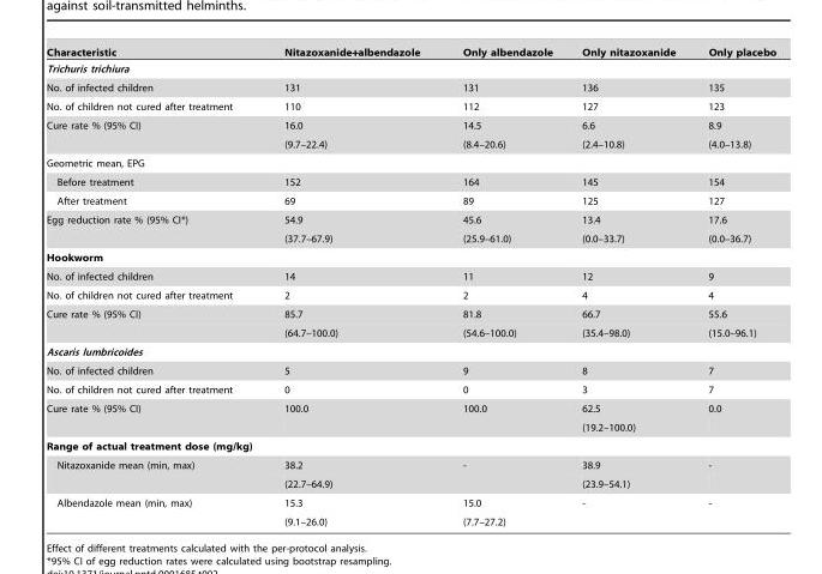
<table><thead><tr><td>Characteristic</td><td>Nitazoxanide+albendazole</td><td>Only albendazole</td><td>Only nitazoxanide</td><td>Only placebo</td></tr></thead><tbody><tr><td colspan="5">Trichuris trichiura</td></tr><tr><td>No. of infected children</td><td>131</td><td>131</td><td>136</td><td>135</td></tr><tr><td>No. of children not cured after treatment</td><td>110</td><td>112</td><td>127</td><td>123</td></tr><tr><td rowspan="2">Cure rate % (95% CI)</td><td>16.0</td><td>14.5</td><td>6.6</td><td>8.9</td></tr><tr><td>(9.7–22.4)</td><td>(8.4–20.6)</td><td>(2.4–10.8)</td><td>(4.0–13.8)</td></tr><tr><td colspan="5">Geometric mean, EPG</td></tr><tr><td>Before treatment</td><td>152</td><td>164</td><td>145</td><td>154</td></tr><tr><td>After treatment</td><td>69</td><td>89</td><td>125</td><td>127</td></tr><tr><td rowspan="2">Egg reduction rate % (95% CI*)</td><td>54.9</td><td>45.6</td><td>13.4</td><td>17.6</td></tr><tr><td>(37.7–67.9)</td><td>(25.9–61.0)</td><td>(0.0–33.7)</td><td>(0.0–36.7)</td></tr><tr><td colspan="5">Hookworm</td></tr><tr><td>No. of infected children</td><td>14</td><td>11</td><td>12</td><td>9</td></tr><tr><td>No. of children not cured after treatment</td><td>2</td><td>2</td><td>4</td><td>4</td></tr><tr><td rowspan="2">Cure rate % (95% CI)</td><td>85.7</td><td>81.8</td><td>66.7</td><td>55.6</td></tr><tr><td>(64.7–100.0)</td><td>(54.6–100.0)</td><td>(35.4–98.0)</td><td>(15.0–96.1)</td></tr><tr><td colspan="5">Ascaris lumbricoides</td></tr><tr><td>No. of infected children</td><td>5</td><td>9</td><td>8</td><td>7</td></tr><tr><td>No. of children not cured after treatment</td><td>0</td><td>0</td><td>3</td><td>7</td></tr><tr><td rowspan="2">Cure rate % (95% CI)</td><td>100.0</td><td>100.0</td><td>62.5</td><td>0.0</td></tr><tr><td></td><td></td><td>(19.2–100.0)</td><td></td></tr><tr><td colspan="5">Range of actual treatment dose (mg/kg)</td></tr><tr><td rowspan="2">Nitazoxanide mean (min, max)</td><td>38.2</td><td>-</td><td>38.9</td><td>-</td></tr><tr><td>(22.7–64.9)</td><td></td><td>(23.9–54.1)</td><td></td></tr><tr><td rowspan="2">Albendazole mean (min, max)</td><td>15.3</td><td>15.0</td><td>-</td><td>-</td></tr><tr><td>(9.1–26.0)</td><td>(7.7–27.2)</td><td></td><td></td></tr></tbody></table>